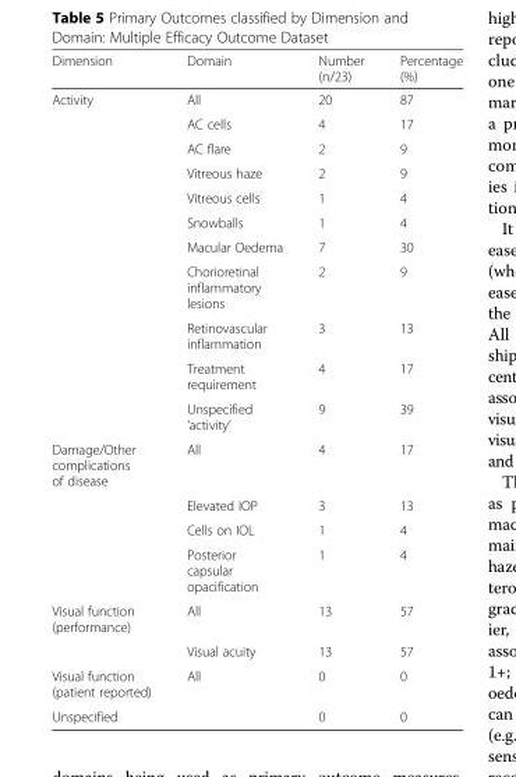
<table><thead><tr><td>Dimension</td><td>Domain</td><td>Number (n/23)</td><td>Percentage (%)</td></tr></thead><tbody><tr><td rowspan="11">Activity</td><td>All</td><td>20</td><td>87</td></tr><tr><td>AC cells</td><td>4</td><td>17</td></tr><tr><td>AC flare</td><td>2</td><td>9</td></tr><tr><td>Vitreous haze</td><td>2</td><td>9</td></tr><tr><td>Vitreous cells</td><td>1</td><td>4</td></tr><tr><td>Snowballs</td><td>1</td><td>4</td></tr><tr><td>Macular Oedema</td><td>7</td><td>30</td></tr><tr><td>Chorioretinal inflammatory lesions</td><td>2</td><td>9</td></tr><tr><td>Retinovascular inflammation</td><td>3</td><td>13</td></tr><tr><td>Treatment requirement</td><td>4</td><td>17</td></tr><tr><td>Unspecified ‘activity’</td><td>9</td><td>39</td></tr><tr><td rowspan="4">Damage/Other complications of disease</td><td>All</td><td>4</td><td>17</td></tr><tr><td>Elevated IOP</td><td>3</td><td>13</td></tr><tr><td>Cells on IOL</td><td>1</td><td>4</td></tr><tr><td>Posterior capsular opacification</td><td>1</td><td>4</td></tr><tr><td rowspan="2">Visual function (performance)</td><td>All</td><td>13</td><td>57</td></tr><tr><td>Visual acuity</td><td>13</td><td>57</td></tr><tr><td>Visual function (patient reported)</td><td>All</td><td>0</td><td>0</td></tr><tr><td>Unspecified</td><td></td><td>0</td><td>0</td></tr></tbody></table>